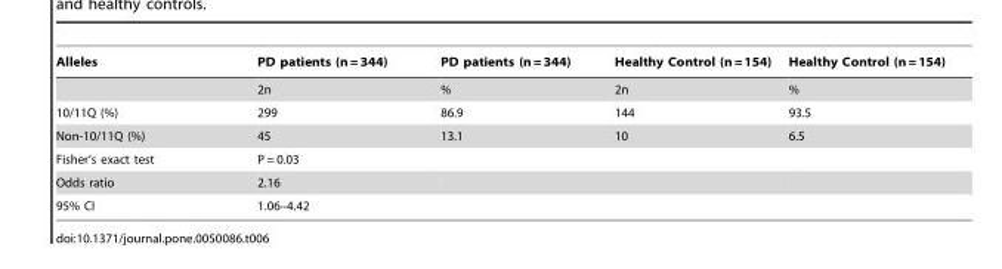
<table><thead><tr><td>Alleles</td><td>PD patients (n = 344)</td><td>PD patients (n = 344)</td><td>Healthy Control (n = 154)</td><td>Healthy Control (n = 154)</td></tr></thead><tbody><tr><td></td><td>2n</td><td>%</td><td>2n</td><td>%</td></tr><tr><td>10/11Q (%)</td><td>299</td><td>86.9</td><td>144</td><td>93.5</td></tr><tr><td>Non-10/11Q (%)</td><td>45</td><td>13.1</td><td>10</td><td>6.5</td></tr><tr><td>Fisher’s exact test</td><td>P = 0.03</td><td></td><td></td><td></td></tr><tr><td>Odds ratio</td><td>2.16</td><td></td><td></td><td></td></tr><tr><td>95% CI</td><td>1.06–4.42</td><td></td><td></td><td></td></tr></tbody></table>